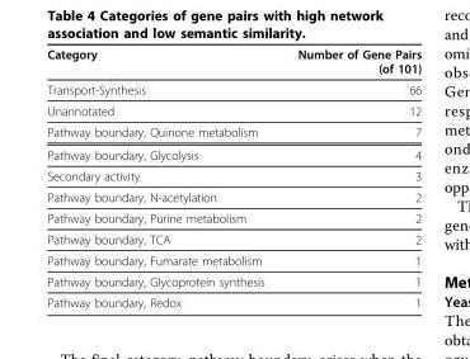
<table><thead><tr><td>Category</td><td>Number of Gene Pairs (of 101)</td></tr></thead><tbody><tr><td>Transport-Synthesis</td><td>66</td></tr><tr><td>Unannotated</td><td>12</td></tr><tr><td>Pathway boundary, Quinone metabolism</td><td>7</td></tr><tr><td>Pathway boundary, Glycolysis</td><td>4</td></tr><tr><td>Secondary activity</td><td>3</td></tr><tr><td>Pathway boundary, N-acetylation</td><td>2</td></tr><tr><td>Pathway boundary, Purine metabolism</td><td>2</td></tr><tr><td>Pathway boundary, TCA</td><td>2</td></tr><tr><td>Pathway boundary, Fumarate metabolism</td><td>1</td></tr><tr><td>Pathway boundary, Glycoprotein synthesis</td><td>1</td></tr><tr><td>Pathway boundary, Redox</td><td>1</td></tr></tbody></table>